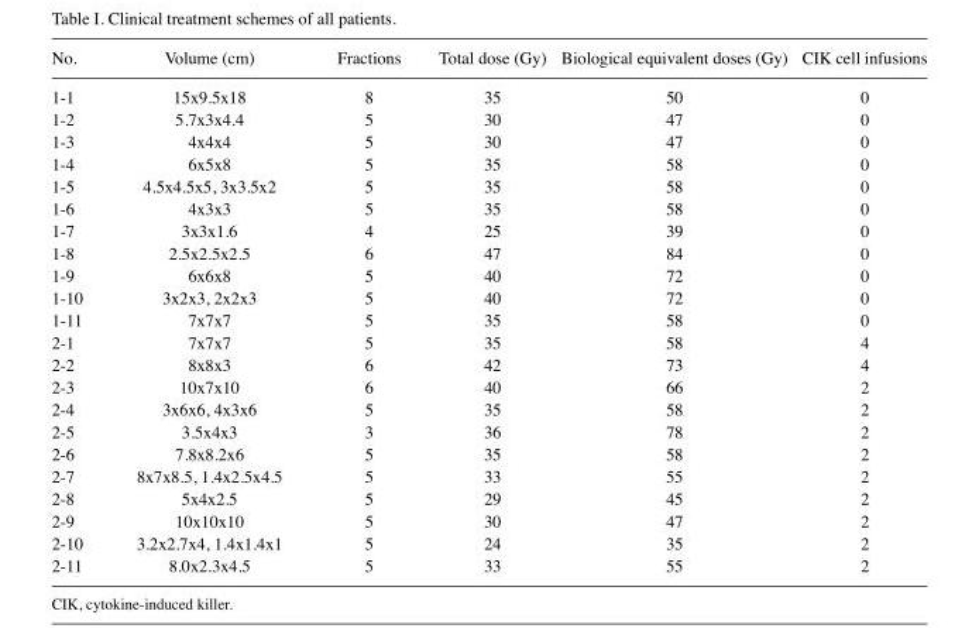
<table><thead><tr><td>No.</td><td>Volume (cm)</td><td>Fractions</td><td>Total dose (Gy)</td><td>Biological equivalent doses (Gy)</td><td>CIK cell infusions</td></tr></thead><tbody><tr><td>1-1</td><td>15x9.5x18</td><td>8</td><td>35</td><td>50</td><td>0</td></tr><tr><td>1-2</td><td>5.7x3x4.4</td><td>5</td><td>30</td><td>47</td><td>0</td></tr><tr><td>1-3</td><td>4x4x4</td><td>5</td><td>30</td><td>47</td><td>0</td></tr><tr><td>1-4</td><td>6x5x8</td><td>5</td><td>35</td><td>58</td><td>0</td></tr><tr><td>1-5</td><td>4.5x4.5x5, 3x3.5x2</td><td>5</td><td>35</td><td>58</td><td>0</td></tr><tr><td>1-6</td><td>4x3x3</td><td>5</td><td>35</td><td>58</td><td>0</td></tr><tr><td>1-7</td><td>3x3x1.6</td><td>4</td><td>25</td><td>39</td><td>0</td></tr><tr><td>1-8</td><td>2.5x2.5x2.5</td><td>6</td><td>47</td><td>84</td><td>0</td></tr><tr><td>1-9</td><td>6x6x8</td><td>5</td><td>40</td><td>72</td><td>0</td></tr><tr><td>1-10</td><td>3x2x3, 2x2x3</td><td>5</td><td>40</td><td>72</td><td>0</td></tr><tr><td>1-11</td><td>7x7x7</td><td>5</td><td>35</td><td>58</td><td>0</td></tr><tr><td>2-1</td><td>7x7x7</td><td>5</td><td>35</td><td>58</td><td>4</td></tr><tr><td>2-2</td><td>8x8x3</td><td>6</td><td>42</td><td>73</td><td>4</td></tr><tr><td>2-3</td><td>10x7x10</td><td>6</td><td>40</td><td>66</td><td>2</td></tr><tr><td>2-4</td><td>3x6x6, 4x3x6</td><td>5</td><td>35</td><td>58</td><td>2</td></tr><tr><td>2-5</td><td>3.5x4x3</td><td>3</td><td>36</td><td>78</td><td>2</td></tr><tr><td>2-6</td><td>7.8x8.2x6</td><td>5</td><td>35</td><td>58</td><td>2</td></tr><tr><td>2-7</td><td>8x7x8.5, 1.4x2.5x4.5</td><td>5</td><td>33</td><td>55</td><td>2</td></tr><tr><td>2-8</td><td>5x4x2.5</td><td>5</td><td>29</td><td>45</td><td>2</td></tr><tr><td>2-9</td><td>10x10x10</td><td>5</td><td>30</td><td>47</td><td>2</td></tr><tr><td>2-10</td><td>3.2x2.7x4, 1.4x1.4x1</td><td>5</td><td>24</td><td>35</td><td>2</td></tr><tr><td>2-11</td><td>8.0x2.3x4.5</td><td>5</td><td>33</td><td>55</td><td>2</td></tr></tbody></table>